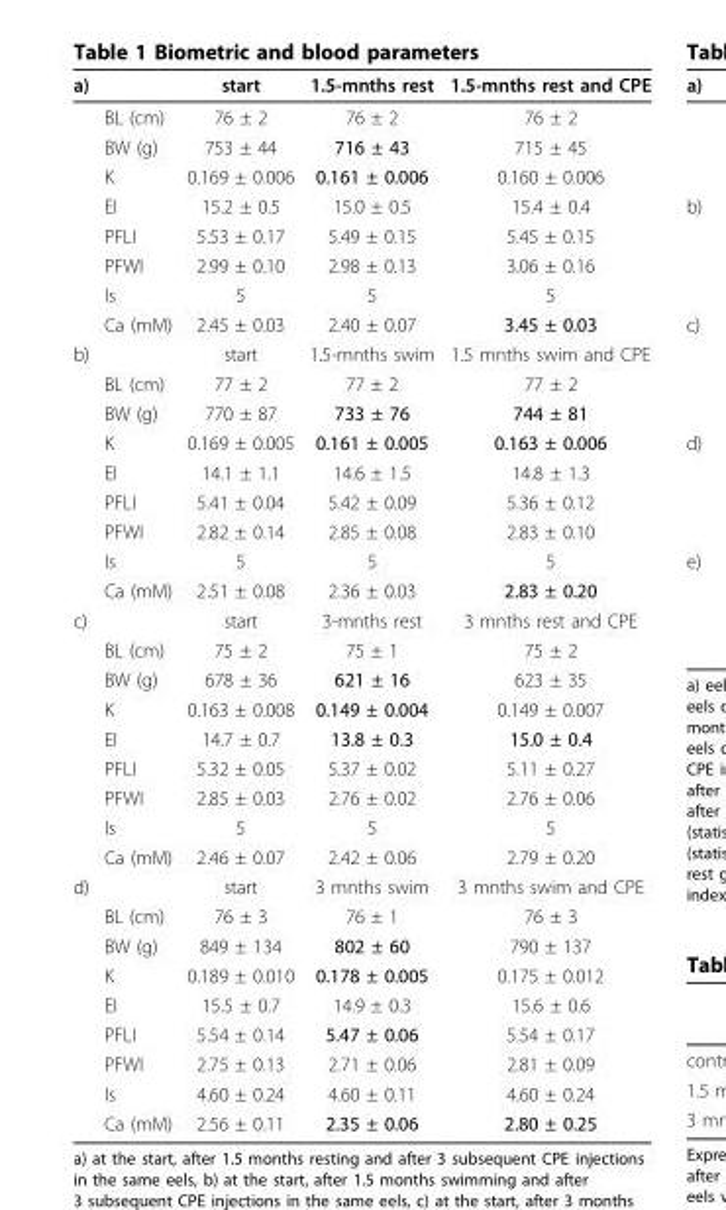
<table><thead><tr><td>a)</td><td></td><td>start</td><td>1.5-mnths rest</td><td>1.5-mnths rest and CPE</td></tr></thead><tbody><tr><td></td><td>BL (cm)</td><td>76 ± 2</td><td>76 ± 2</td><td>76 ± 2</td></tr><tr><td></td><td>BW (g)</td><td>753 ± 44</td><td>716 ± 43</td><td>715 ± 45</td></tr><tr><td></td><td>K</td><td>0.169 ± 0.006</td><td>0.161 ± 0.006</td><td>0.160 ± 0.006</td></tr><tr><td></td><td>EI</td><td>15.2 ± 0.5</td><td>15.0 ± 0.5</td><td>15.4 ± 0.4</td></tr><tr><td></td><td>PFLI</td><td>5.53 ± 0.17</td><td>5.49 ± 0.15</td><td>5.45 ± 0.15</td></tr><tr><td></td><td>PFWI</td><td>2.99 ± 0.10</td><td>2.98 ± 0.13</td><td>3.06 ± 0.16</td></tr><tr><td></td><td>Is</td><td>5</td><td>5</td><td>5</td></tr><tr><td></td><td>Ca (mM)</td><td>2.45 ± 0.03</td><td>2.40 ± 0.07</td><td>3.45 ± 0.03</td></tr><tr><td rowspan="9">b)</td><td></td><td>start</td><td>1.5-mnths swim</td><td>1.5 mnths swim and CPE</td></tr><tr><td>BL (cm)</td><td>77 ± 2</td><td>77 ± 2</td><td>77 ± 2</td></tr><tr><td>BW (g)</td><td>770 ± 87</td><td>733 ± 76</td><td>744 ± 81</td></tr><tr><td>K</td><td>0.169 ± 0.005</td><td>0.161 ± 0.005</td><td>0.163 ± 0.006</td></tr><tr><td>EI</td><td>14.1 ± 1.1</td><td>14.6 ± 1.5</td><td>14.8 ± 1.3</td></tr><tr><td>PFLI</td><td>5.41 ± 0.04</td><td>5.42 ± 0.09</td><td>5.36 ± 0.12</td></tr><tr><td>PFWI</td><td>2.82 ± 0.14</td><td>2.85 ± 0.08</td><td>2.83 ± 0.10</td></tr><tr><td>Is</td><td>5</td><td>5</td><td>5</td></tr><tr><td>Ca (mM)</td><td>2.51 ± 0.08</td><td>2.36 ± 0.03</td><td>2.83 ± 0.20</td></tr><tr><td rowspan="9">c)</td><td></td><td>start</td><td>3-mnths rest</td><td>3 mnths rest and CPE</td></tr><tr><td>BL (cm)</td><td>75 ± 2</td><td>75 ± 1</td><td>75 ± 2</td></tr><tr><td>BW (g)</td><td>678 ± 36</td><td>621 ± 16</td><td>623 ± 35</td></tr><tr><td>K</td><td>0.163 ± 0.008</td><td>0.149 ± 0.004</td><td>0.149 ± 0.007</td></tr><tr><td>EI</td><td>14.7 ± 0.7</td><td>13.8 ± 0.3</td><td>15.0 ± 0.4</td></tr><tr><td>PFLI</td><td>5.32 ± 0.05</td><td>5.37 ± 0.02</td><td>5.11 ± 0.27</td></tr><tr><td>PFWI</td><td>2.85 ± 0.03</td><td>2.76 ± 0.02</td><td>2.76 ± 0.06</td></tr><tr><td>Is</td><td>5</td><td>5</td><td>5</td></tr><tr><td>Ca (mM)</td><td>2.46 ± 0.07</td><td>2.42 ± 0.06</td><td>2.79 ± 0.20</td></tr><tr><td rowspan="9">d)</td><td></td><td>start</td><td>3 mnths swim</td><td>3 mnths swim and CPE</td></tr><tr><td>BL (cm)</td><td>76 ± 3</td><td>76 ± 1</td><td>76 ± 3</td></tr><tr><td>BW (g)</td><td>849 ± 134</td><td>802 ± 60</td><td>790 ± 137</td></tr><tr><td>K</td><td>0.189 ± 0.010</td><td>0.178 ± 0.005</td><td>0.175 ± 0.012</td></tr><tr><td>EI</td><td>15.5 ± 0.7</td><td>14.9 ± 0.3</td><td>15.6 ± 0.6</td></tr><tr><td>PFLI</td><td>5.54 ± 0.14</td><td>5.47 ± 0.06</td><td>5.54 ± 0.17</td></tr><tr><td>PFWI</td><td>2.75 ± 0.13</td><td>2.71 ± 0.06</td><td>2.81 ± 0.09</td></tr><tr><td>Is</td><td>4.60 ± 0.24</td><td>4.60 ± 0.11</td><td>4.60 ± 0.24</td></tr><tr><td>Ca (mM)</td><td>2.56 ± 0.11</td><td>2.35 ± 0.06</td><td>2.80 ± 0.25</td></tr></tbody></table>